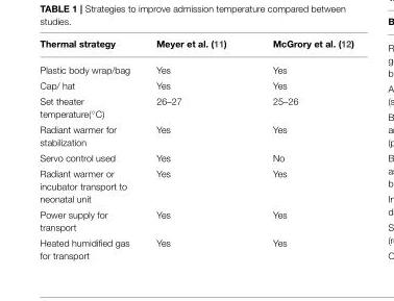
<table><thead><tr><td>Thermal strategy</td><td>Meyer et al. (11)</td><td>McGrory et al. (12)</td></tr></thead><tbody><tr><td>Plastic body wrap/bag</td><td>Yes</td><td>Yes</td></tr><tr><td>Cap/ hat</td><td>Yes</td><td>Yes</td></tr><tr><td>Set theater temperature(◦C)</td><td>26–27</td><td>25–26</td></tr><tr><td>Radiant warmer for stabilization</td><td>Yes</td><td>Yes</td></tr><tr><td>Servo control used</td><td>Yes</td><td>No</td></tr><tr><td>Radiant warmer or incubator transport to neonatal unit</td><td>Yes</td><td>Yes</td></tr><tr><td>Power supply for transport</td><td>Yes</td><td>Yes</td></tr><tr><td>Heated humidified gas for transport</td><td>Yes</td><td>Yes</td></tr></tbody></table>